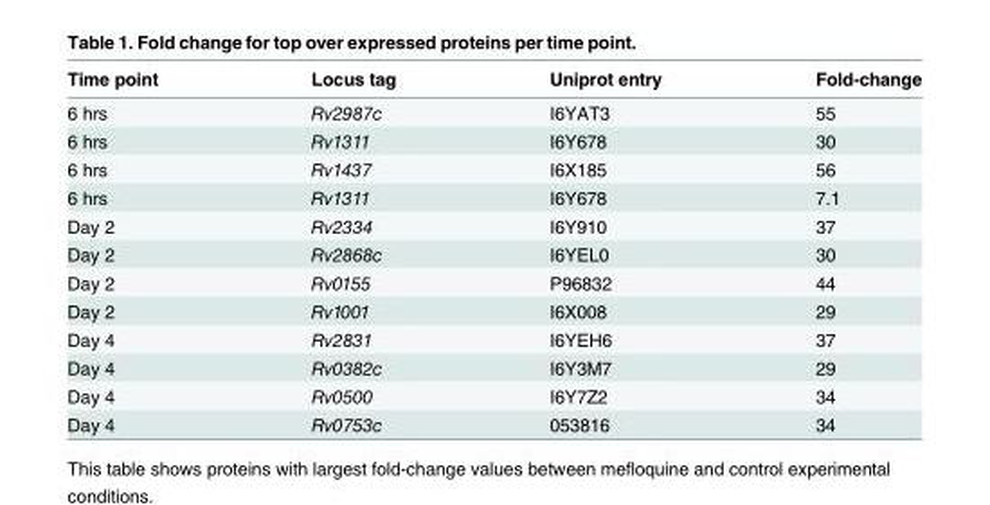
<table><thead><tr><td>Time point</td><td>Locus tag</td><td>Uniprot entry</td><td>Fold-change</td></tr></thead><tbody><tr><td>6 hrs</td><td>Rv2987c</td><td>I6YAT3</td><td>55</td></tr><tr><td>6 hrs</td><td>Rv1311</td><td>I6Y678</td><td>30</td></tr><tr><td>6 hrs</td><td>Rv1437</td><td>I6X185</td><td>56</td></tr><tr><td>6 hrs</td><td>Rv1311</td><td>I6Y678</td><td>7.1</td></tr><tr><td>Day 2</td><td>Rv2334</td><td>I6Y910</td><td>37</td></tr><tr><td>Day 2</td><td>Rv2868c</td><td>I6YEL0</td><td>30</td></tr><tr><td>Day 2</td><td>Rv0155</td><td>P96832</td><td>44</td></tr><tr><td>Day 2</td><td>Rv1001</td><td>I6X008</td><td>29</td></tr><tr><td>Day 4</td><td>Rv2831</td><td>I6YEH6</td><td>37</td></tr><tr><td>Day 4</td><td>Rv0382c</td><td>I6Y3M7</td><td>29</td></tr><tr><td>Day 4</td><td>Rv0500</td><td>I6Y7Z2</td><td>34</td></tr><tr><td>Day 4</td><td>Rv0753c</td><td>053816</td><td>34</td></tr></tbody></table>